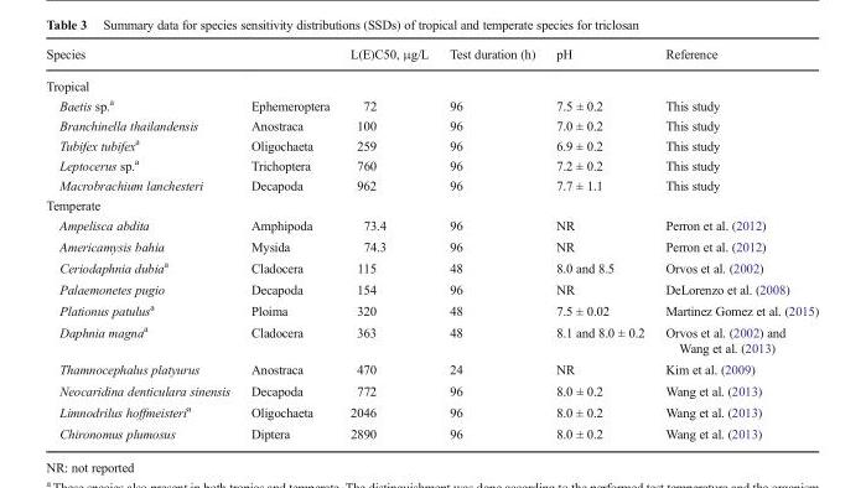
<table><thead><tr><td>Species</td><td></td><td>L(E)C50, μg/L</td><td>Test duration (h)</td><td>pH</td><td>Reference</td></tr></thead><tbody><tr><td colspan="6">Tropical</td></tr><tr><td>Baetis sp.<sup>a</sup></td><td>Ephemeroptera</td><td>72</td><td>96</td><td>7.5 ± 0.2</td><td>This study</td></tr><tr><td>Branchinella thailandensis</td><td>Anostraca</td><td>100</td><td>96</td><td>7.0 ± 0.2</td><td>This study</td></tr><tr><td>Tubifex tubifex<sup>a</sup></td><td>Oligochaeta</td><td>259</td><td>96</td><td>6.9 ± 0.2</td><td>This study</td></tr><tr><td>Leptocerus sp.<sup>a</sup></td><td>Trichoptera</td><td>760</td><td>96</td><td>7.2 ± 0.2</td><td>This study</td></tr><tr><td>Macrobrachium lanchesteri</td><td>Decapoda</td><td>962</td><td>96</td><td>7.7 ± 1.1</td><td>This study</td></tr><tr><td colspan="6">Temperate</td></tr><tr><td>Ampelisca abdita</td><td>Amphipoda</td><td>73.4</td><td>96</td><td>NR</td><td>Perron et al. (2012)</td></tr><tr><td>Americamysis bahia</td><td>Mysida</td><td>74.3</td><td>96</td><td>NR</td><td>Perron et al. (2012)</td></tr><tr><td>Ceriodaphnia dubia<sup>a</sup></td><td>Cladocera</td><td>115</td><td>48</td><td>8.0 and 8.5</td><td>Orvos et al. (2002)</td></tr><tr><td>Palaemonetes pugio</td><td>Decapoda</td><td>154</td><td>96</td><td>NR</td><td>DeLorenzo et al. (2008)</td></tr><tr><td>Plationus patulus<sup>a</sup></td><td>Ploima</td><td>320</td><td>48</td><td>7.5 ± 0.02</td><td>Martinez Gomez et al. (2015)</td></tr><tr><td>Daphnia magna<sup>a</sup></td><td>Cladocera</td><td>363</td><td>48</td><td>8.1 and 8.0 ± 0.2</td><td>Orvos et al. (2002) and Wang et al. (2013)</td></tr><tr><td>Thamnocephalus platyurus</td><td>Anostraca</td><td>470</td><td>24</td><td>NR</td><td>Kim et al. (2009)</td></tr><tr><td>Neocaridina denticulara sinensis</td><td>Decapoda</td><td>772</td><td>96</td><td>8.0 ± 0.2</td><td>Wang et al. (2013)</td></tr><tr><td>Limnodrilus hoffmeisteri<sup>a</sup></td><td>Oligochaeta</td><td>2046</td><td>96</td><td>8.0 ± 0.2</td><td>Wang et al. (2013)</td></tr><tr><td>Chironomus plumosus</td><td>Diptera</td><td>2890</td><td>96</td><td>8.0 ± 0.2</td><td>Wang et al. (2013)</td></tr></tbody></table>